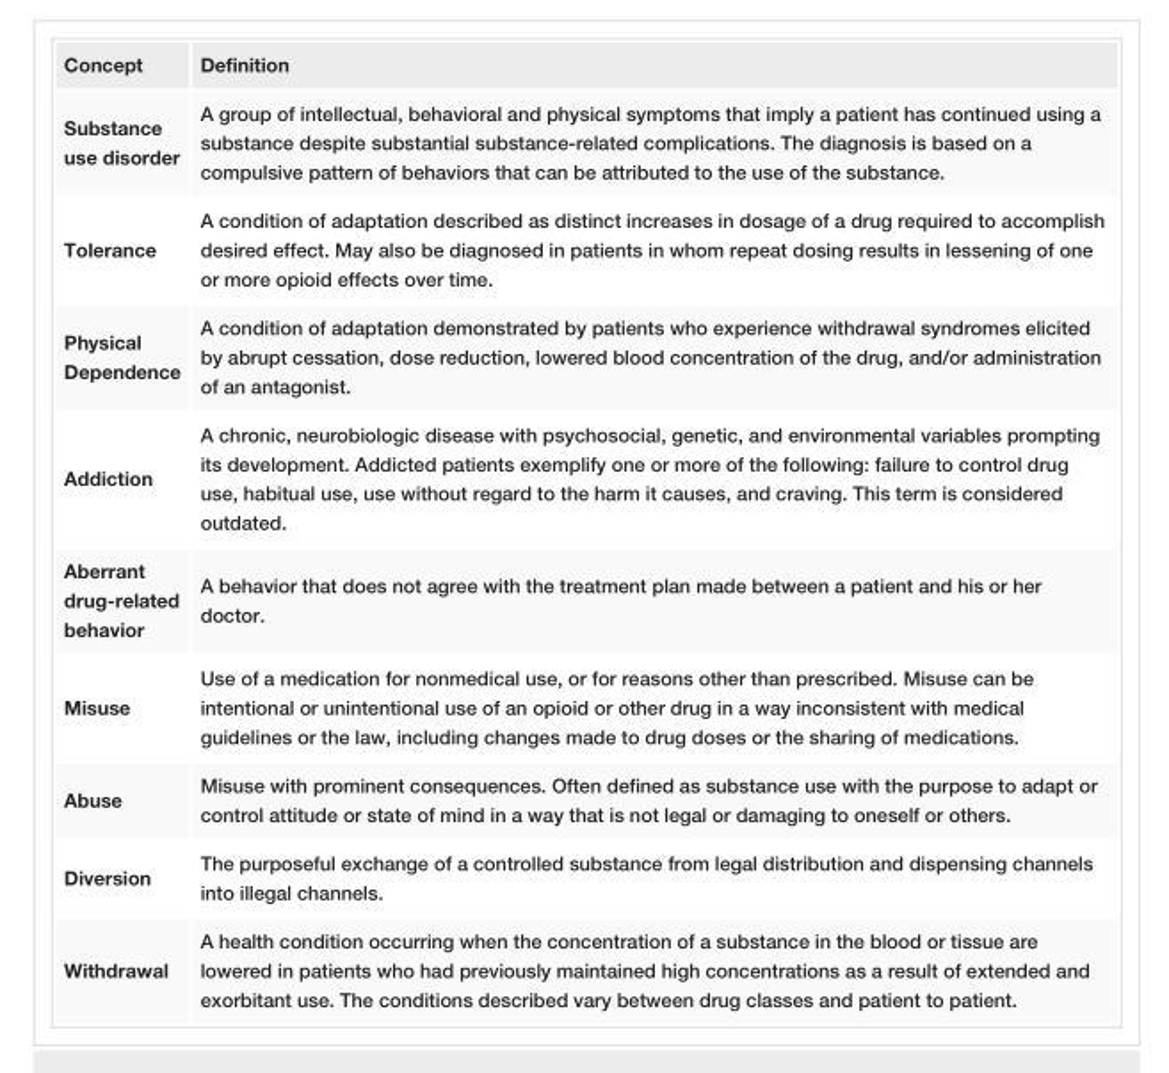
<table><tbody><tr><td>Concept</td><td>Definition</td></tr><tr><td>Substance use disorder</td><td>A group of intellectual, behavioral and physical symptoms that imply a patient has continued using a substance despite substantial substance-related complications. The diagnosis is based on a compulsive pattern of behaviors that can be attributed to the use of the substance.</td></tr><tr><td>Tolerance</td><td>A condition of adaptation described as distinct increases in dosage of a drug required to accomplish desired effect. May also be diagnosed in patients in whom repeat dosing results in lessening of one or more opioid effects over time.</td></tr><tr><td>Physical Dependence</td><td>A condition of adaptation demonstrated by patients who experience withdrawal syndromes elicited by abrupt cessation, dose reduction, lowered blood concentration of the drug, and/or administration of an antagonist.</td></tr><tr><td>Addiction</td><td>A chronic, neurobiologic disease with psychosocial, genetic, and environmental variables prompting its development. Addicted patients exemplify one or more of the following: failure to control drug use, habitual use, use without regard to the harm it causes, and craving. This term is considered outdated.</td></tr><tr><td>Aberrant drug-related behavior</td><td>A behavior that does not agree with the treatment plan made between a patient and his or her doctor.</td></tr><tr><td>Misuse</td><td>Use of a medication for nonmedical use, or for reasons other than prescribed. Misuse can be intentional or unintentional use of an opioid or other drug in a way inconsistent with medical guidelines or the law, including changes made to drug doses or the sharing of medications.</td></tr><tr><td>Abuse</td><td>Misuse with prominent consequences. Often defined as substance use with the purpose to adapt or control attitude or state of mind in a way that is not legal or damaging to oneself or others.</td></tr><tr><td>Diversion</td><td>The purposeful exchange of a controlled substance from legal distribution and dispensing channels into illegal channels.</td></tr><tr><td>Withdrawal</td><td>A health condition occurring when the concentration of a substance in the blood or tissue are lowered in patients who had previously maintained high concentrations as a result of extended and exorbitant use. The conditions described vary between drug classes and patient to patient.</td></tr></tbody></table>